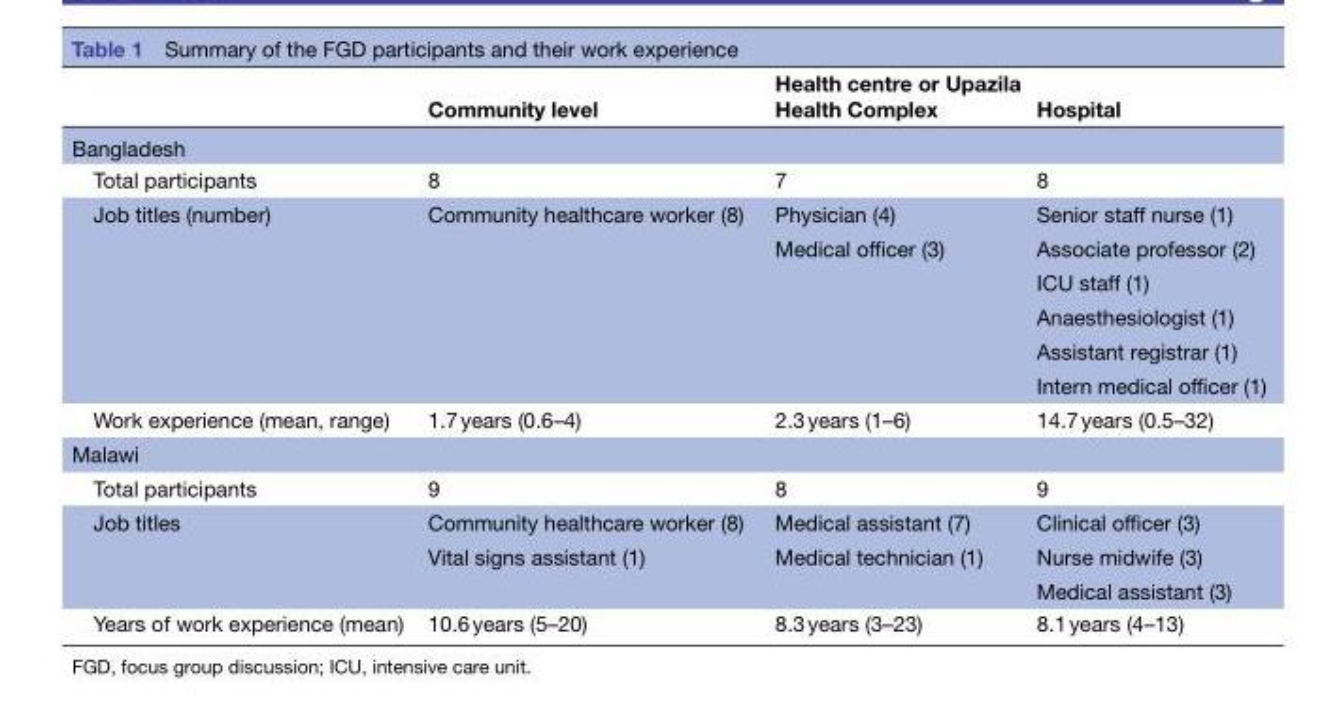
<table><thead><tr><td></td><td>Community level</td><td>Health centre or Upazila Health Complex</td><td>Hospital</td></tr></thead><tbody><tr><td colspan="4">Bangladesh</td></tr><tr><td>Total participants</td><td>8</td><td>7</td><td>8</td></tr><tr><td rowspan="6">Job titles (number)</td><td rowspan="6">Community healthcare worker (8)</td><td>Physician (4)</td><td>Senior staff nurse (1)</td></tr><tr><td>Medical officer (3)</td><td>Associate professor (2)</td></tr><tr><td></td><td>ICU staff (1)</td></tr><tr><td></td><td>Anaesthesiologist (1)</td></tr><tr><td></td><td>Assistant registrar (1)</td></tr><tr><td></td><td>Intern medical officer (1)</td></tr><tr><td>Work experience (mean, range)</td><td>1.7 years (0.6–4)</td><td>2.3 years (1–6)</td><td>14.7 years (0.5–32)</td></tr><tr><td colspan="4">Malawi</td></tr><tr><td>Total participants</td><td>9</td><td>8</td><td>9</td></tr><tr><td rowspan="3">Job titles</td><td>Community healthcare worker (8)</td><td>Medical assistant (7)</td><td>Clinical officer (3)</td></tr><tr><td>Vital signs assistant (1)</td><td>Medical technician (1)</td><td>Nurse midwife (3)</td></tr><tr><td></td><td></td><td>Medical assistant (3)</td></tr><tr><td>Years of work experience (mean)</td><td>10.6 years (5–20)</td><td>8.3 years (3–23)</td><td>8.1 years (4–13)</td></tr></tbody></table>